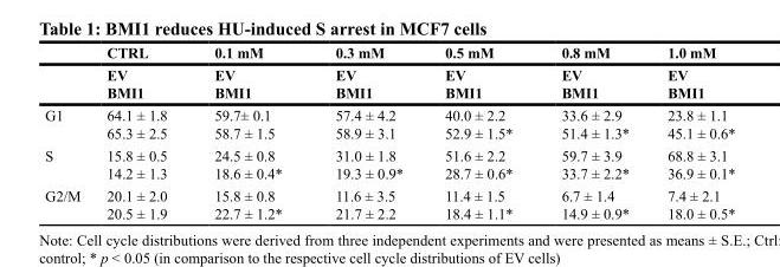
<table><thead><tr><td rowspan="2"></td><td rowspan="2">CTRL EV BMI1</td><td rowspan="2">0.1 mM EV BMI1</td><td rowspan="2">0.3 mM EV BMI1</td><td rowspan="2">0.5 mM EV BMI1</td><td rowspan="2">0.8 mM EV BMI1</td><td rowspan="2">1.0 mM EV BMI1</td></tr><tr></tr></thead><tbody><tr><td>G1</td><td>64.1 ± 1.8 65.3 ± 2.5</td><td>59.7± 0.1 58.7 ± 1.5</td><td>57.4 ± 4.2 58.9 ± 3.1</td><td>40.0 ± 2.2 52.9 ± 1.5*</td><td>33.6 ± 2.9 51.4 ± 1.3*</td><td>23.8 ± 1.1 45.1 ± 0.6*</td></tr><tr><td>S</td><td>15.8 ± 0.5 14.2 ± 1.3</td><td>24.5 ± 0.8 18.6 ± 0.4*</td><td>31.0 ± 1.8 19.3 ± 0.9*</td><td>51.6 ± 2.2 28.7 ± 0.6*</td><td>59.7 ± 3.9 33.7 ± 2.2*</td><td>68.8 ± 3.1 36.9 ± 0.1*</td></tr><tr><td>G2/M</td><td>20.1 ± 2.0 20.5 ± 1.9</td><td>15.8 ± 0.8 22.7 ± 1.2*</td><td>11.6 ± 3.5 21.7 ± 2.2</td><td>11.4 ± 1.5 18.4 ± 1.1*</td><td>6.7 ± 1.4 14.9 ± 0.9*</td><td>7.4 ± 2.1 18.0 ± 0.5*</td></tr></tbody></table>